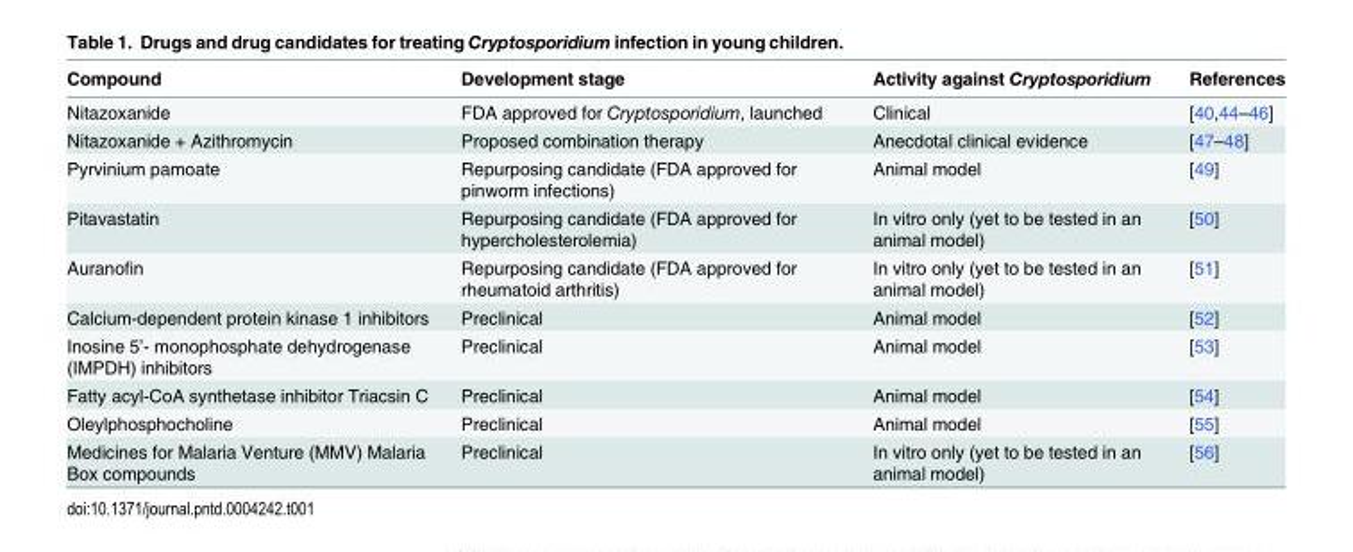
<table><thead><tr><td>Compound</td><td>Development stage</td><td>Activity against Cryptosporidium</td><td>References</td></tr></thead><tbody><tr><td>Nitazoxanide</td><td>FDA approved for Cryptosporidium, launched</td><td>Clinical</td><td>[40,44–46]</td></tr><tr><td>Nitazoxanide + Azithromycin</td><td>Proposed combination therapy</td><td>Anecdotal clinical evidence</td><td>[47–48]</td></tr><tr><td>Pyrvinium pamoate</td><td>Repurposing candidate (FDA approved for pinworm infections)</td><td>Animal model</td><td>[49]</td></tr><tr><td>Pitavastatin</td><td>Repurposing candidate (FDA approved for hypercholesterolemia)</td><td>In vitro only (yet to be tested in an animal model)</td><td>[50]</td></tr><tr><td>Auranofin</td><td>Repurposing candidate (FDA approved for rheumatoid arthritis)</td><td>In vitro only (yet to be tested in an animal model)</td><td>[51]</td></tr><tr><td>Calcium-dependent protein kinase 1 inhibitors</td><td>Preclinical</td><td>Animal model</td><td>[52]</td></tr><tr><td>Inosine 5’- monophosphate dehydrogenase (IMPDH) inhibitors</td><td>Preclinical</td><td>Animal model</td><td>[53]</td></tr><tr><td>Fatty acyl-CoA synthetase inhibitor Triacsin C</td><td>Preclinical</td><td>Animal model</td><td>[54]</td></tr><tr><td>Oleylphosphocholine</td><td>Preclinical</td><td>Animal model</td><td>[55]</td></tr><tr><td>Medicines for Malaria Venture (MMV) Malaria Box compounds</td><td>Preclinical</td><td>In vitro only (yet to be tested in an animal model)</td><td>[56]</td></tr></tbody></table>